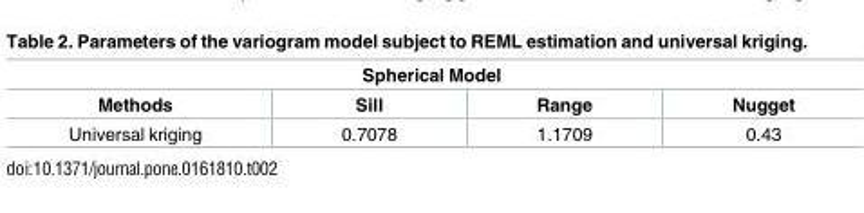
<table><thead><tr><td colspan="4">Spherical Model</td></tr><tr><td>Methods</td><td>Sill</td><td>Range</td><td>Nugget</td></tr></thead><tbody><tr><td>Universal kriging</td><td>0.7078</td><td>1.1709</td><td>0.43</td></tr></tbody></table>